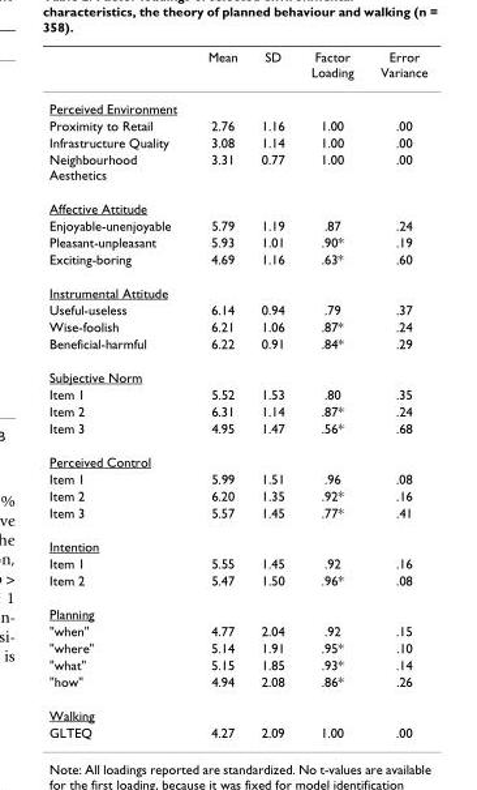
<table><thead><tr><td></td><td>Mean</td><td>SD</td><td>Factor Loading</td><td>Error Variance</td></tr></thead><tbody><tr><td colspan="5">Perceived Environment</td></tr><tr><td>Proximity to Retail</td><td>2.76</td><td>1.16</td><td>1.00</td><td>.00</td></tr><tr><td>Infrastructure Quality</td><td>3.08</td><td>1.14</td><td>1.00</td><td>.00</td></tr><tr><td>Neighbourhood Aesthetics</td><td>3.31</td><td>0.77</td><td>1.00</td><td>.00</td></tr><tr><td colspan="5">Affective Attitude</td></tr><tr><td>Enjoyable-unenjoyable</td><td>5.79</td><td>1.19</td><td>.87</td><td>.24</td></tr><tr><td>Pleasant-unpleasant</td><td>5.93</td><td>1.01</td><td>.90*</td><td>.19</td></tr><tr><td>Exciting-boring</td><td>4.69</td><td>1.16</td><td>.63*</td><td>.60</td></tr><tr><td colspan="5">Instrumental Attitude</td></tr><tr><td>Useful-useless</td><td>6.14</td><td>0.94</td><td>.79</td><td>.37</td></tr><tr><td>Wise-foolish</td><td>6.21</td><td>1.06</td><td>.87*</td><td>.24</td></tr><tr><td>Beneficial-harmful</td><td>6.22</td><td>0.91</td><td>.84*</td><td>.29</td></tr><tr><td colspan="5">Subjective Norm</td></tr><tr><td>Item 1</td><td>5.52</td><td>1.53</td><td>.80</td><td>.35</td></tr><tr><td>Item 2</td><td>6.31</td><td>1.14</td><td>.87*</td><td>.24</td></tr><tr><td>Item 3</td><td>4.95</td><td>1.47</td><td>.56*</td><td>.68</td></tr><tr><td colspan="5">Perceived Control</td></tr><tr><td>Item 1</td><td>5.99</td><td>1.51</td><td>.96</td><td>.08</td></tr><tr><td>Item 2</td><td>6.20</td><td>1.35</td><td>.92*</td><td>.16</td></tr><tr><td>Item 3</td><td>5.57</td><td>1.45</td><td>.77*</td><td>.41</td></tr><tr><td colspan="5">Intention</td></tr><tr><td>Item 1</td><td>5.55</td><td>1.45</td><td>.92</td><td>.16</td></tr><tr><td>Item 2</td><td>5.47</td><td>1.50</td><td>.96*</td><td>.08</td></tr><tr><td colspan="5">Planning</td></tr><tr><td>&quot;when&quot;</td><td>4.77</td><td>2.04</td><td>.92</td><td>.15</td></tr><tr><td>&quot;where&quot;</td><td>5.14</td><td>1.91</td><td>.95*</td><td>.10</td></tr><tr><td>&quot;what&quot;</td><td>5.15</td><td>1.85</td><td>.93*</td><td>.14</td></tr><tr><td>&quot;how&quot;</td><td>4.94</td><td>2.08</td><td>.86*</td><td>.26</td></tr><tr><td colspan="5">Walking</td></tr><tr><td>GLTEQ</td><td>4.27</td><td>2.09</td><td>1.00</td><td>.00</td></tr></tbody></table>